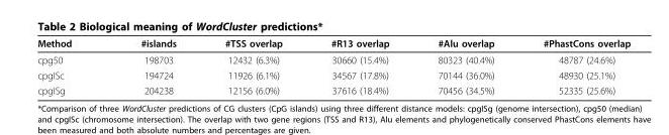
<table><thead><tr><td>Method</td><td>#islands</td><td>#TSS overlap</td><td>#R13 overlap</td><td>#Alu overlap</td><td>#PhastCons overlap</td></tr></thead><tbody><tr><td>cpg50</td><td>198703</td><td>12432 (6.3%)</td><td>30660 (15.4%)</td><td>80323 (40.4%)</td><td>48787 (24.6%)</td></tr><tr><td>cpgISc</td><td>194724</td><td>11926 (6.1%)</td><td>34567 (17.8%)</td><td>70144 (36.0%)</td><td>48930 (25.1%)</td></tr><tr><td>cpgISg</td><td>204238</td><td>12156 (6.0%)</td><td>37616 (18.4%)</td><td>70456 (34.5%)</td><td>52335 (25.6%)</td></tr></tbody></table>